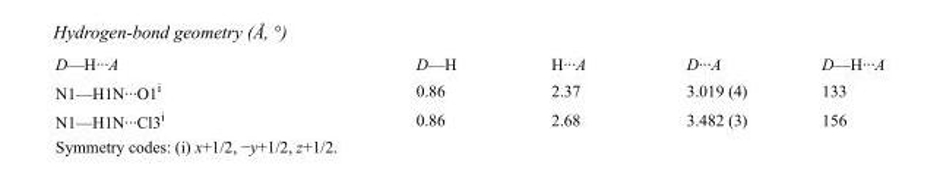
<table><tbody><tr><td>D—H···A</td><td>D—H</td><td>H···A</td><td>D···A</td><td>D—H···A</td></tr><tr><td>N1—H1N···O1<sup>i</sup></td><td>0.86</td><td>2.37</td><td>3.019 (4)</td><td>133</td></tr><tr><td>N1—H1N···Cl3<sup>i</sup></td><td>0.86</td><td>2.68</td><td>3.482 (3)</td><td>156</td></tr></tbody></table>